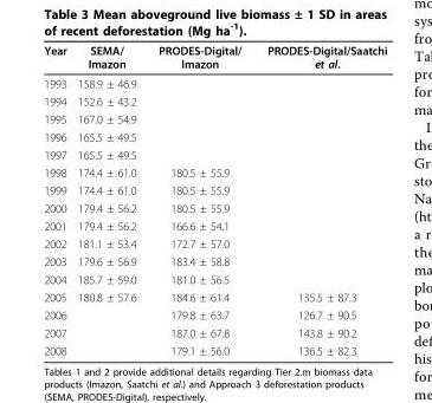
<table><thead><tr><td>Year</td><td>SEMA/ Imazon</td><td>PRODES-Digital/ Imazon</td><td>PRODES-Digital/Saatchi et al.</td></tr></thead><tbody><tr><td>1993</td><td>158.9 ± 46.9</td><td></td><td></td></tr><tr><td>1994</td><td>152.6 ± 43.2</td><td></td><td></td></tr><tr><td>1995</td><td>167.0 ± 54.9</td><td></td><td></td></tr><tr><td>1996</td><td>165.5 ± 49.5</td><td></td><td></td></tr><tr><td>1997</td><td>165.5 ± 49.5</td><td></td><td></td></tr><tr><td>1998</td><td>174.4 ± 61.0</td><td>180.5 ± 55.9</td><td></td></tr><tr><td>1999</td><td>174.4 ± 61.0</td><td>180.5 ± 55.9</td><td></td></tr><tr><td>2000</td><td>179.4 ± 56.2</td><td>180.5 ± 55.9</td><td></td></tr><tr><td>2001</td><td>179.4 ± 56.2</td><td>166.6 ± 54.1</td><td></td></tr><tr><td>2002</td><td>181.1 ± 53.4</td><td>172.7 ± 57.0</td><td></td></tr><tr><td>2003</td><td>179.6 ± 56.9</td><td>183.4 ± 58.8</td><td></td></tr><tr><td>2004</td><td>185.7 ± 59.0</td><td>181.0 ± 56.5</td><td></td></tr><tr><td>2005</td><td>180.8 ± 57.6</td><td>184.6 ± 61.4</td><td>135.5 ± 87.3</td></tr><tr><td>2006</td><td></td><td>179.8 ± 63.7</td><td>126.7 ± 90.5</td></tr><tr><td>2007</td><td></td><td>187.0 ± 67.8</td><td>143.8 ± 90.2</td></tr><tr><td>2008</td><td></td><td>179.1 ± 56.0</td><td>136.5 ± 82.3</td></tr></tbody></table>